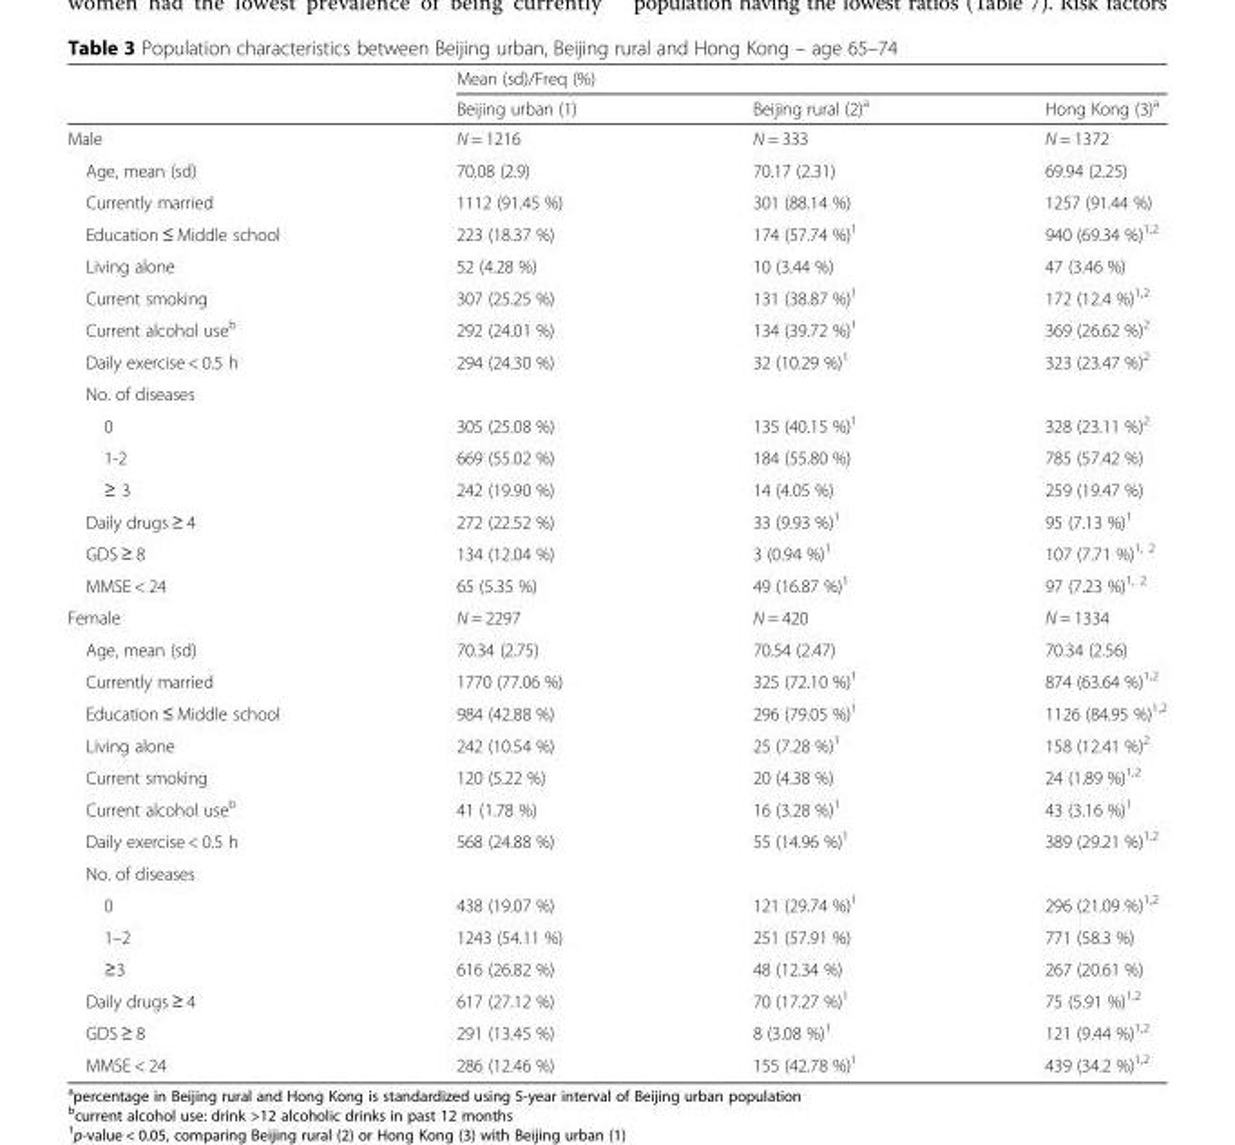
<table><thead><tr><td rowspan="2"></td><td colspan="3">Mean (sd)/Freq (%)</td></tr><tr><td>Beijing urban (1)</td><td>Beijing rural (2)<sup>a</sup></td><td>Hong Kong (3)<sup>a</sup></td></tr></thead><tbody><tr><td>Male</td><td>N = 1216</td><td>N = 333</td><td>N = 1372</td></tr><tr><td>Age, mean (sd)</td><td>70.08 (2.9)</td><td>70.17 (2.31)</td><td>69.94 (2.25)</td></tr><tr><td>Currently married</td><td>1112 (91.45 %)</td><td>301 (88.14 %)</td><td>1257 (91.44 %)</td></tr><tr><td>Education ≤ Middle school</td><td>223 (18.37 %)</td><td>174 (57.74 %)<sup>1</sup></td><td>940 (69.34 %)<sup>1,2</sup></td></tr><tr><td>Living alone</td><td>52 (4.28 %)</td><td>10 (3.44 %)</td><td>47 (3.46 %)</td></tr><tr><td>Current smoking</td><td>307 (25.25 %)</td><td>131 (38.87 %)<sup>1</sup></td><td>172 (12.4 %)<sup>1,2</sup></td></tr><tr><td>Current alcohol use<sup>b</sup></td><td>292 (24.01 %)</td><td>134 (39.72 %)<sup>1</sup></td><td>369 (26.62 %)<sup>2</sup></td></tr><tr><td>Daily exercise &lt; 0.5 h</td><td>294 (24.30 %)</td><td>32 (10.29 %)<sup>1</sup></td><td>323 (23.47 %)<sup>2</sup></td></tr><tr><td colspan="4">No. of diseases</td></tr><tr><td>0</td><td>305 (25.08 %)</td><td>135 (40.15 %)<sup>1</sup></td><td>328 (23.11 %)<sup>2</sup></td></tr><tr><td>1-2</td><td>669 (55.02 %)</td><td>184 (55.80 %)</td><td>785 (57.42 %)</td></tr><tr><td>≥ 3</td><td>242 (19.90 %)</td><td>14 (4.05 %)</td><td>259 (19.47 %)</td></tr><tr><td>Daily drugs ≥ 4</td><td>272 (22.52 %)</td><td>33 (9.93 %)<sup>1</sup></td><td>95 (7.13 %)<sup>1</sup></td></tr><tr><td>GDS ≥ 8</td><td>134 (12.04 %)</td><td>3 (0.94 %)<sup>1</sup></td><td>107 (7.71 %)<sup>1, 2</sup></td></tr><tr><td>MMSE &lt; 24</td><td>65 (5.35 %)</td><td>49 (16.87 %)<sup>1</sup></td><td>97 (7.23 %)<sup>1, 2</sup></td></tr><tr><td>Female</td><td>N = 2297</td><td>N = 420</td><td>N = 1334</td></tr><tr><td>Age, mean (sd)</td><td>70.34 (2.75)</td><td>70.54 (2.47)</td><td>70.34 (2.56)</td></tr><tr><td>Currently married</td><td>1770 (77.06 %)</td><td>325 (72.10 %)<sup>1</sup></td><td>874 (63.64 %)<sup>1,2</sup></td></tr><tr><td>Education ≤ Middle school</td><td>984 (42.88 %)</td><td>296 (79.05 %)<sup>1</sup></td><td>1126 (84.95 %)<sup>1,2</sup></td></tr><tr><td>Living alone</td><td>242 (10.54 %)</td><td>25 (7.28 %)<sup>1</sup></td><td>158 (12.41 %)<sup>2</sup></td></tr><tr><td>Current smoking</td><td>120 (5.22 %)</td><td>20 (4.38 %)</td><td>24 (1.89 %)<sup>1,2</sup></td></tr><tr><td>Current alcohol use<sup>b</sup></td><td>41 (1.78 %)</td><td>16 (3.28 %)<sup>1</sup></td><td>43 (3.16 %)<sup>1</sup></td></tr><tr><td>Daily exercise &lt; 0.5 h</td><td>568 (24.88 %)</td><td>55 (14.96 %)<sup>1</sup></td><td>389 (29.21 %)<sup>1,2</sup></td></tr><tr><td colspan="4">No. of diseases</td></tr><tr><td>0</td><td>438 (19.07 %)</td><td>121 (29.74 %)<sup>1</sup></td><td>296 (21.09 %)<sup>1,2</sup></td></tr><tr><td>1–2</td><td>1243 (54.11 %)</td><td>251 (57.91 %)</td><td>771 (58.3 %)</td></tr><tr><td>≥3</td><td>616 (26.82 %)</td><td>48 (12.34 %)</td><td>267 (20.61 %)</td></tr><tr><td>Daily drugs ≥ 4</td><td>617 (27.12 %)</td><td>70 (17.27 %)<sup>1</sup></td><td>75 (5.91 %)<sup>1,2</sup></td></tr><tr><td>GDS ≥ 8</td><td>291 (13.45 %)</td><td>8 (3.08 %)<sup>1</sup></td><td>121 (9.44 %)<sup>1,2</sup></td></tr><tr><td>MMSE &lt; 24</td><td>286 (12.46 %)</td><td>155 (42.78 %)<sup>1</sup></td><td>439 (34.2 %)<sup>1,2</sup></td></tr></tbody></table>